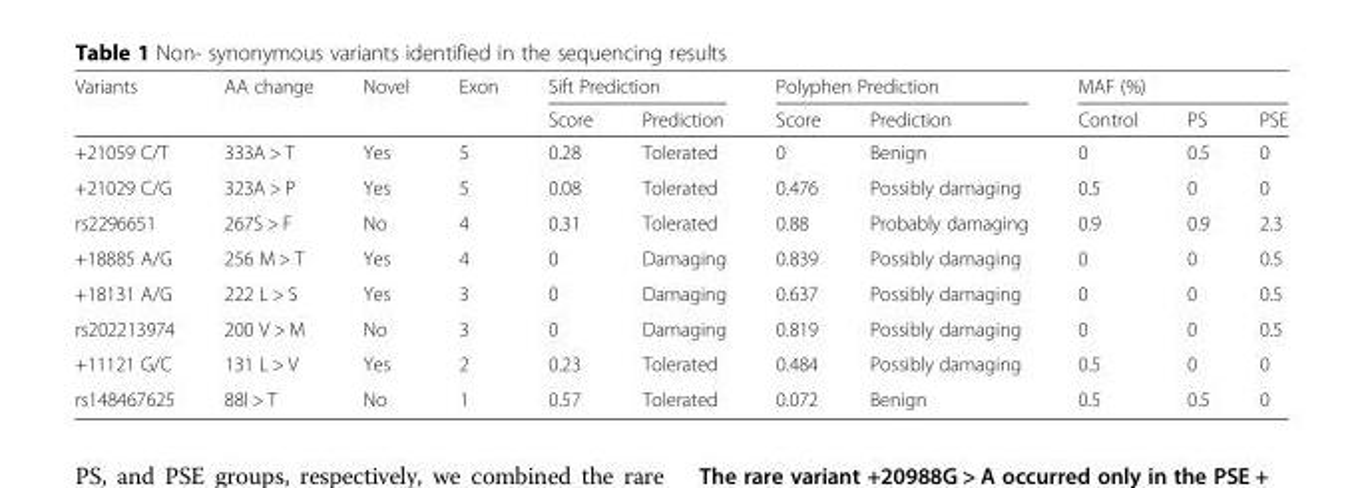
<table><thead><tr><td rowspan="2">Variants</td><td rowspan="2">AA change</td><td rowspan="2">Novel</td><td rowspan="2">Exon</td><td colspan="2">Sift Prediction</td><td colspan="2">Polyphen Prediction</td><td colspan="3">MAF (%)</td></tr><tr><td>Score</td><td>Prediction</td><td>Score</td><td>Prediction</td><td>Control</td><td>PS</td><td>PSE</td></tr></thead><tbody><tr><td>+21059 C/T</td><td>333A &gt; T</td><td>Yes</td><td>5</td><td>0.28</td><td>Tolerated</td><td>0</td><td>Benign</td><td>0</td><td>0.5</td><td>0</td></tr><tr><td>+21029 C/G</td><td>323A &gt; P</td><td>Yes</td><td>5</td><td>0.08</td><td>Tolerated</td><td>0.476</td><td>Possibly damaging</td><td>0.5</td><td>0</td><td>0</td></tr><tr><td>rs2296651</td><td>267S &gt; F</td><td>No</td><td>4</td><td>0.31</td><td>Tolerated</td><td>0.88</td><td>Probably damaging</td><td>0.9</td><td>0.9</td><td>2.3</td></tr><tr><td>+18885 A/G</td><td>256 M &gt; T</td><td>Yes</td><td>4</td><td>0</td><td>Damaging</td><td>0.839</td><td>Possibly damaging</td><td>0</td><td>0</td><td>0.5</td></tr><tr><td>+18131 A/G</td><td>222 L &gt; S</td><td>Yes</td><td>3</td><td>0</td><td>Damaging</td><td>0.637</td><td>Possibly damaging</td><td>0</td><td>0</td><td>0.5</td></tr><tr><td>rs202213974</td><td>200 V &gt; M</td><td>No</td><td>3</td><td>0</td><td>Damaging</td><td>0.819</td><td>Possibly damaging</td><td>0</td><td>0</td><td>0.5</td></tr><tr><td>+11121 G/C</td><td>131 L &gt; V</td><td>Yes</td><td>2</td><td>0.23</td><td>Tolerated</td><td>0.484</td><td>Possibly damaging</td><td>0.5</td><td>0</td><td>0</td></tr><tr><td>rs148467625</td><td>88I &gt; T</td><td>No</td><td>1</td><td>0.57</td><td>Tolerated</td><td>0.072</td><td>Benign</td><td>0.5</td><td>0.5</td><td>0</td></tr></tbody></table>